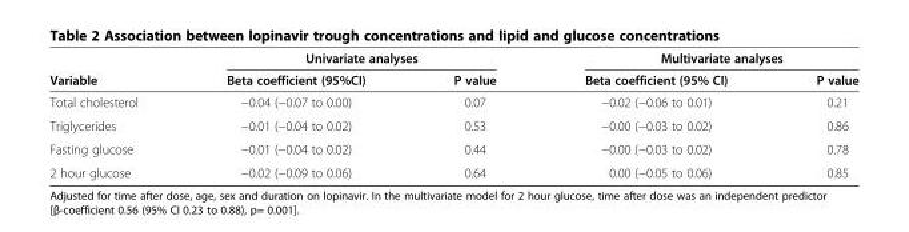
<table><thead><tr><td rowspan="2">Variable</td><td colspan="2">Univariate analyses</td><td colspan="2">Multivariate analyses</td></tr><tr><td>Beta coefficient (95%CI)</td><td>P value</td><td>Beta coefficient (95% CI)</td><td>P value</td></tr></thead><tbody><tr><td>Total cholesterol</td><td>−0.04 (−0.07 to 0.00)</td><td>0.07</td><td>−0.02 (−0.06 to 0.01)</td><td>0.21</td></tr><tr><td>Triglycerides</td><td>−0.01 (−0.04 to 0.02)</td><td>0.53</td><td>−0.00 (−0.03 to 0.02)</td><td>0.86</td></tr><tr><td>Fasting glucose</td><td>−0.01 (−0.04 to 0.02)</td><td>0.44</td><td>−0.00 (−0.03 to 0.02)</td><td>0.78</td></tr><tr><td>2 hour glucose</td><td>−0.02 (−0.09 to 0.06)</td><td>0.64</td><td>0.00 (−0.05 to 0.06)</td><td>0.85</td></tr></tbody></table>